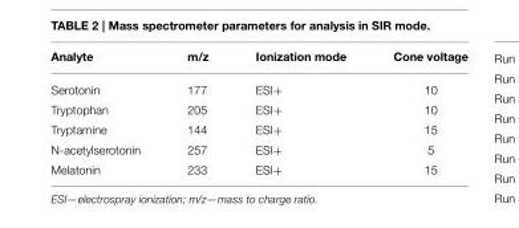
<table><thead><tr><td>Analyte</td><td>m/z</td><td>Ionization mode</td><td>Cone voltage</td></tr></thead><tbody><tr><td>Serotonin</td><td>177</td><td>ESI+</td><td>10</td></tr><tr><td>Tryptophan</td><td>205</td><td>ESI+</td><td>10</td></tr><tr><td>Tryptamine</td><td>144</td><td>ESI+</td><td>15</td></tr><tr><td>N-acetylserotonin</td><td>257</td><td>ESI+</td><td>5</td></tr><tr><td>Melatonin</td><td>233</td><td>ESI+</td><td>15</td></tr></tbody></table>